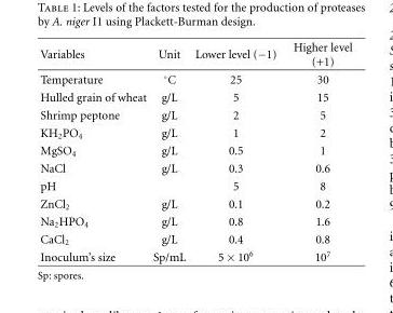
<table><thead><tr><td>Variables</td><td>Unit</td><td>Lower level (−1)</td><td>Higher level (+1)</td></tr></thead><tbody><tr><td>Temperature</td><td>◦C</td><td>25</td><td>30</td></tr><tr><td>Hulled grain of wheat</td><td>g/L</td><td>5</td><td>15</td></tr><tr><td>Shrimp peptone</td><td>g/L</td><td>2</td><td>5</td></tr><tr><td>KH<sub>2</sub>PO<sub>4</sub></td><td>g/L</td><td>1</td><td>2</td></tr><tr><td>MgSO<sub>4</sub></td><td>g/L</td><td>0.5</td><td>1</td></tr><tr><td>NaCl</td><td>g/L</td><td>0.3</td><td>0.6</td></tr><tr><td>pH</td><td></td><td>5</td><td>8</td></tr><tr><td>ZnCl<sub>2</sub></td><td>g/L</td><td>0.1</td><td>0.2</td></tr><tr><td>Na<sub>2</sub>HPO<sub>4</sub></td><td>g/L</td><td>0.8</td><td>1.6</td></tr><tr><td>CaCl<sub>2</sub></td><td>g/L</td><td>0.4</td><td>0.8</td></tr><tr><td>Inoculum’s size</td><td>Sp/mL</td><td>5 × 10<sup>6</sup></td><td>10<sup>7</sup></td></tr></tbody></table>